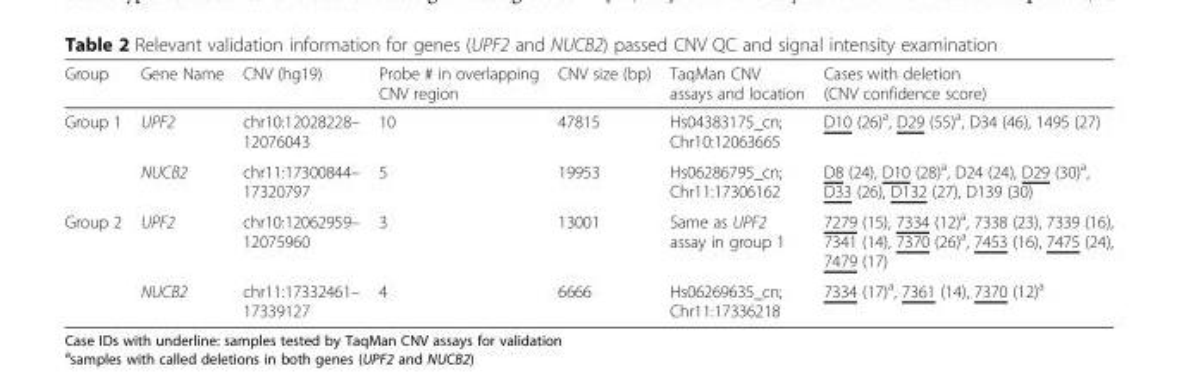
<table><thead><tr><td>Group</td><td>Gene Name</td><td>CNV (hg19)</td><td>Probe # in overlapping CNV region</td><td>CNV size (bp)</td><td>TaqMan CNV assays and location</td><td>Cases with deletion (CNV confidence score)</td></tr></thead><tbody><tr><td rowspan="2">Group 1</td><td>UPF2</td><td>chr10:12028228– 12076043</td><td>10</td><td>47815</td><td>Hs04383175_cn; Chr10:12063665</td><td>D10 (26)<sup>a</sup>, D29 (55)<sup>a</sup>, D34 (46), 1495 (27)</td></tr><tr><td>NUCB2</td><td>chr11:17300844– 17320797</td><td>5</td><td>19953</td><td>Hs06286795_cn; Chr11:17306162</td><td>D8 (24), D10 (28)<sup>a</sup>, D24 (24), D29 (30)<sup>a</sup>, D33 (26), D132 (27), D139 (30)</td></tr><tr><td rowspan="2">Group 2</td><td>UPF2</td><td>chr10:12062959– 12075960</td><td>3</td><td>13001</td><td>Same as UPF2 assay in group 1</td><td>7279 (15), 7334 (12)<sup>a</sup>, 7338 (23), 7339 (16), 7341 (14), 7370 (26)<sup>a</sup>, 7453 (16), 7475 (24), 7479 (17)</td></tr><tr><td>NUCB2</td><td>chr11:17332461– 17339127</td><td>4</td><td>6666</td><td>Hs06269635_cn; Chr11:17336218</td><td>7334 (17)<sup>a</sup>, 7361 (14), 7370 (12)<sup>a</sup></td></tr></tbody></table>